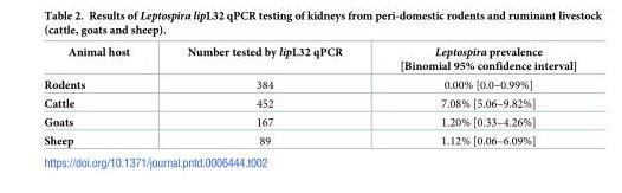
<table><thead><tr><td>Animal host</td><td>Number tested by lipL32 qPCR</td><td>Leptospira prevalence [Binomial 95% confidence interval]</td></tr></thead><tbody><tr><td>Rodents</td><td>384</td><td>0.00% [0.0–0.99%]</td></tr><tr><td>Cattle</td><td>452</td><td>7.08% [5.06–9.82%]</td></tr><tr><td>Goats</td><td>167</td><td>1.20% [0.33–4.26%]</td></tr><tr><td>Sheep</td><td>89</td><td>1.12% [0.06–6.09%]</td></tr></tbody></table>